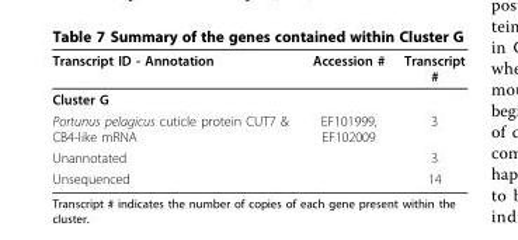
<table><thead><tr><td>Transcript ID - Annotation</td><td>Accession #</td><td>Transcript #</td></tr></thead><tbody><tr><td colspan="3">Cluster G</td></tr><tr><td>Portunus pelagicus cuticle protein CUT7 &amp; CB4-like mRNA</td><td>EF101999, EF102009</td><td>3</td></tr><tr><td>Unannotated</td><td></td><td>3</td></tr><tr><td>Unsequenced</td><td></td><td>14</td></tr></tbody></table>